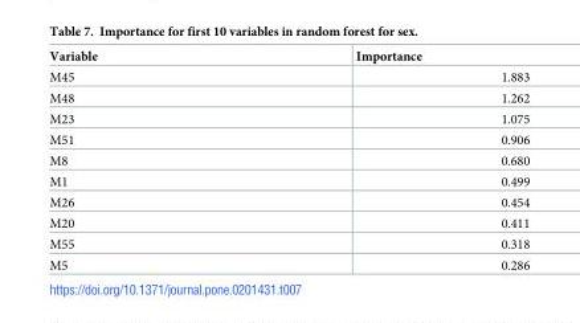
<table><thead><tr><td>Variable</td><td>Importance</td></tr></thead><tbody><tr><td>M45</td><td>1.883</td></tr><tr><td>M48</td><td>1.262</td></tr><tr><td>M23</td><td>1.075</td></tr><tr><td>M51</td><td>0.906</td></tr><tr><td>M8</td><td>0.680</td></tr><tr><td>M1</td><td>0.499</td></tr><tr><td>M26</td><td>0.454</td></tr><tr><td>M20</td><td>0.411</td></tr><tr><td>M55</td><td>0.318</td></tr><tr><td>M5</td><td>0.286</td></tr></tbody></table>